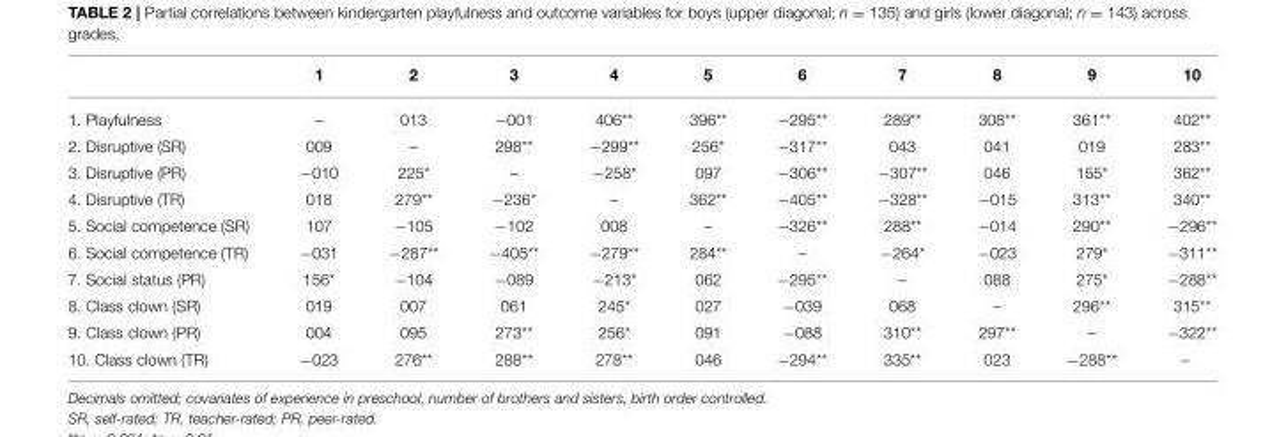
<table><thead><tr><td></td><td>1</td><td>2</td><td>3</td><td>4</td><td>5</td><td>6</td><td>7</td><td>8</td><td>9</td><td>10</td></tr></thead><tbody><tr><td>1. Playfulness</td><td>–</td><td>013</td><td>−001</td><td>406**</td><td>396**</td><td>−295**</td><td>289**</td><td>308**</td><td>361**</td><td>402**</td></tr><tr><td>2. Disruptive (SR)</td><td>009</td><td>–</td><td>298**</td><td>−299**</td><td>256*</td><td>−317**</td><td>043</td><td>041</td><td>019</td><td>283**</td></tr><tr><td>3. Disruptive (PR)</td><td>−010</td><td>225*</td><td>–</td><td>−258*</td><td>097</td><td>−306**</td><td>−307**</td><td>046</td><td>155*</td><td>362**</td></tr><tr><td>4. Disruptive (TR)</td><td>018</td><td>279**</td><td>−236*</td><td>–</td><td>362**</td><td>−405**</td><td>−328**</td><td>−015</td><td>313**</td><td>340**</td></tr><tr><td>5. Social competence (SR)</td><td>107</td><td>−105</td><td>−102</td><td>008</td><td>–</td><td>−326**</td><td>288**</td><td>−014</td><td>290**</td><td>−296**</td></tr><tr><td>6. Social competence (TR)</td><td>−031</td><td>−287**</td><td>−405**</td><td>−279**</td><td>284**</td><td>–</td><td>−264*</td><td>−023</td><td>279*</td><td>−311**</td></tr><tr><td>7. Social status (PR)</td><td>156*</td><td>−104</td><td>−089</td><td>−213*</td><td>062</td><td>−295**</td><td>–</td><td>088</td><td>275*</td><td>−288**</td></tr><tr><td>8. Class clown (SR)</td><td>019</td><td>007</td><td>061</td><td>245*</td><td>027</td><td>−039</td><td>068</td><td>–</td><td>296**</td><td>315**</td></tr><tr><td>9. Class clown (PR)</td><td>004</td><td>095</td><td>273**</td><td>256*</td><td>091</td><td>−088</td><td>310**</td><td>297**</td><td>–</td><td>−322**</td></tr><tr><td>10. Class clown (TR)</td><td>−023</td><td>276**</td><td>288**</td><td>278**</td><td>046</td><td>−294**</td><td>335**</td><td>023</td><td>−288**</td><td>–</td></tr></tbody></table>